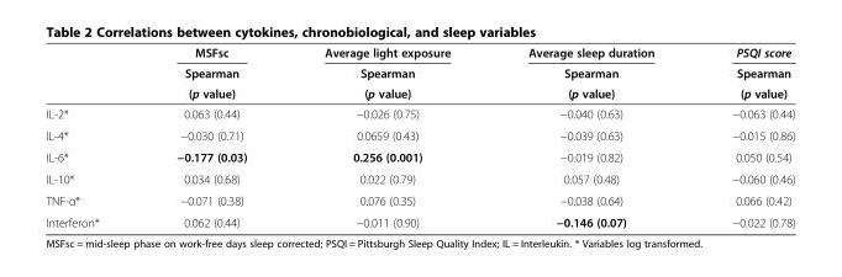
<table><thead><tr><td rowspan="3"></td><td rowspan="3">MSFsc Spearman (p value)</td><td rowspan="3">Average light exposure Spearman (p value)</td><td rowspan="3">Average sleep duration Spearman (p value)</td><td rowspan="3">PSQI score Spearman (p value)</td></tr><tr></tr><tr></tr></thead><tbody><tr><td>IL-2*</td><td>0.063 (0.44)</td><td>−0.026 (0.75)</td><td>−0.040 (0.63)</td><td>−0.063 (0.44)</td></tr><tr><td>IL-4*</td><td>−0.030 (0.71)</td><td>0.0659 (0.43)</td><td>−0.039 (0.63)</td><td>−0.015 (0.86)</td></tr><tr><td>IL-6*</td><td>−0.177 (0.03)</td><td>0.256 (0.001)</td><td>−0.019 (0.82)</td><td>0.050 (0.54)</td></tr><tr><td>IL-10*</td><td>0.034 (0.68)</td><td>0.022 (0.79)</td><td>0.057 (0.48)</td><td>−0.060 (0.46)</td></tr><tr><td>TNF-α*</td><td>−0.071 (0.38)</td><td>0.076 (0.35)</td><td>−0.038 (0.64)</td><td>0.066 (0.42)</td></tr><tr><td>Interferon*</td><td>0.062 (0.44)</td><td>−0.011 (0.90)</td><td>−0.146 (0.07)</td><td>−0.022 (0.78)</td></tr></tbody></table>